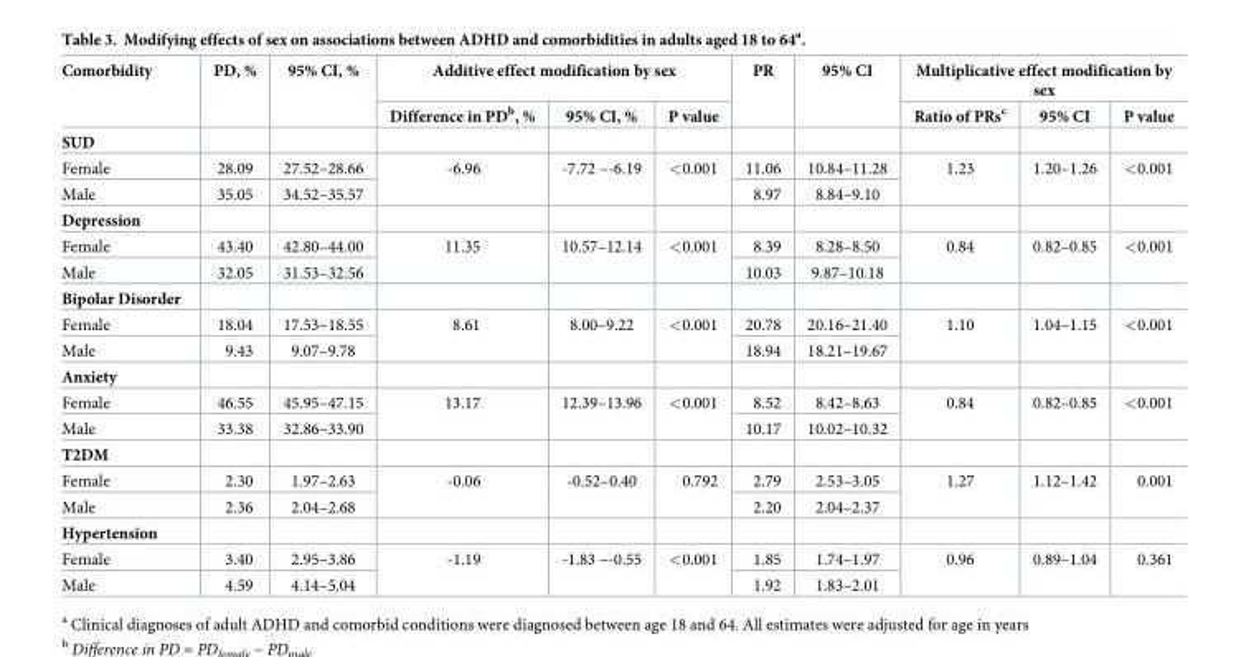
<table><thead><tr><td rowspan="2">Comorbidity</td><td rowspan="2">PD, %</td><td rowspan="2">95% CI, %</td><td colspan="3">Additive effect modification by sex</td><td rowspan="2">PR</td><td rowspan="2">95% CI</td><td colspan="3">Multiplicative effect modification by sex</td></tr><tr><td>Difference in PD<sup>b</sup>, %</td><td>95% CI, %</td><td>P value</td><td>Ratio of PRs<sup>c</sup></td><td>95% CI</td><td>P value</td></tr></thead><tbody><tr><td colspan="11">SUD</td></tr><tr><td>Female</td><td>28.09</td><td>27.52–28.66</td><td rowspan="2">-6.96</td><td rowspan="2">-7.72 –-6.19</td><td rowspan="2">&lt;0.001</td><td>11.06</td><td>10.84–11.28</td><td rowspan="2">1.23</td><td rowspan="2">1.20–1.26</td><td rowspan="2">&lt;0.001</td></tr><tr><td>Male</td><td>35.05</td><td>34.52–35.57</td><td>8.97</td><td>8.84–9.10</td></tr><tr><td colspan="11">Depression</td></tr><tr><td>Female</td><td>43.40</td><td>42.80–44.00</td><td rowspan="2">11.35</td><td rowspan="2">10.57–12.14</td><td rowspan="2">&lt;0.001</td><td>8.39</td><td>8.28–8.50</td><td rowspan="2">0.84</td><td rowspan="2">0.82–0.85</td><td rowspan="2">&lt;0.001</td></tr><tr><td>Male</td><td>32.05</td><td>31.53–32.56</td><td>10.03</td><td>9.87–10.18</td></tr><tr><td colspan="11">Bipolar Disorder</td></tr><tr><td>Female</td><td>18.04</td><td>17.53–18.55</td><td rowspan="2">8.61</td><td rowspan="2">8.00–9.22</td><td rowspan="2">&lt;0.001</td><td>20.78</td><td>20.16–21.40</td><td rowspan="2">1.10</td><td rowspan="2">1.04–1.15</td><td rowspan="2">&lt;0.001</td></tr><tr><td>Male</td><td>9.43</td><td>9.07–9.78</td><td>18.94</td><td>18.21–19.67</td></tr><tr><td colspan="11">Anxiety</td></tr><tr><td>Female</td><td>46.55</td><td>45.95–47.15</td><td rowspan="2">13.17</td><td rowspan="2">12.39–13.96</td><td rowspan="2">&lt;0.001</td><td>8.52</td><td>8.42–8.63</td><td rowspan="2">0.84</td><td rowspan="2">0.82–0.85</td><td rowspan="2">&lt;0.001</td></tr><tr><td>Male</td><td>33.38</td><td>32.86–33.90</td><td>10.17</td><td>10.02–10.32</td></tr><tr><td colspan="11">T2DM</td></tr><tr><td>Female</td><td>2.30</td><td>1.97–2.63</td><td rowspan="2">-0.06</td><td rowspan="2">-0.52–0.40</td><td rowspan="2">0.792</td><td>2.79</td><td>2.53–3.05</td><td rowspan="2">1.27</td><td rowspan="2">1.12–1.42</td><td rowspan="2">0.001</td></tr><tr><td>Male</td><td>2.36</td><td>2.04–2.68</td><td>2.20</td><td>2.04–2.37</td></tr><tr><td colspan="11">Hypertension</td></tr><tr><td>Female</td><td>3.40</td><td>2.95–3.86</td><td rowspan="2">-1.19</td><td rowspan="2">-1.83 –-0.55</td><td rowspan="2">&lt;0.001</td><td>1.85</td><td>1.74–1.97</td><td rowspan="2">0.96</td><td rowspan="2">0.89–1.04</td><td rowspan="2">0.361</td></tr><tr><td>Male</td><td>4.59</td><td>4.14–5.04</td><td>1.92</td><td>1.83–2.01</td></tr></tbody></table>